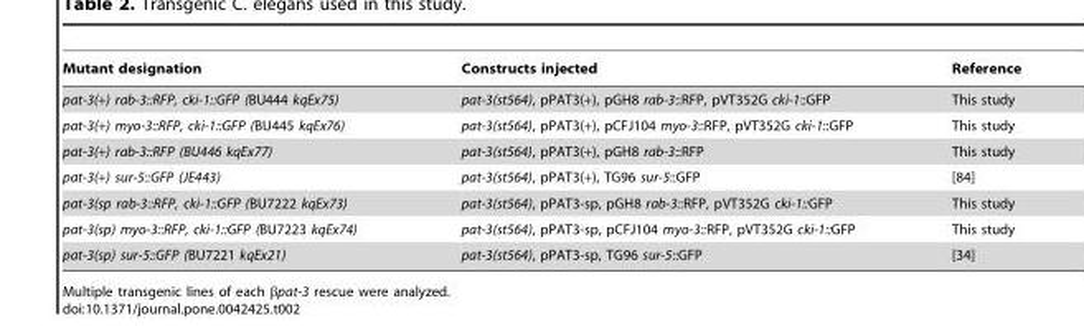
<table><thead><tr><td>Mutant designation</td><td>Constructs injected</td><td>Reference</td></tr></thead><tbody><tr><td>pat-3(+) rab-3::RFP, cki-1::GFP (BU444 kqEx75)</td><td>pat-3(st564), pPAT3(+), pGH8 rab-3::RFP, pVT352G cki-1::GFP</td><td>This study</td></tr><tr><td>pat-3(+) myo-3::RFP, cki-1::GFP (BU445 kqEx76)</td><td>pat-3(st564), pPAT3(+), pCFJ104 myo-3::RFP, pVT352G cki-1::GFP</td><td>This study</td></tr><tr><td>pat-3(+) rab-3::RFP (BU446 kqEx77)</td><td>pat-3(st564), pPAT3(+), pGH8 rab-3::RFP</td><td>This study</td></tr><tr><td>pat-3(+) sur-5::GFP (JE443)</td><td>pat-3(st564), pPAT3(+), TG96 sur-5::GFP</td><td>[84]</td></tr><tr><td>pat-3(sp rab-3::RFP, cki-1::GFP (BU7222 kqEx73)</td><td>pat-3(st564), pPAT3-sp, pGH8 rab-3::RFP, pVT352G cki-1::GFP</td><td>This study</td></tr><tr><td>pat-3(sp) myo-3::RFP, cki-1::GFP (BU7223 kqEx74)</td><td>pat-3(st564), pPAT3-sp, pCFJ104 myo-3::RFP, pVT352G cki-1::GFP</td><td>This study</td></tr><tr><td>pat-3(sp) sur-5::GFP (BU7221 kqEx21)</td><td>pat-3(st564), pPAT3-sp, TG96 sur-5::GFP</td><td>[34]</td></tr></tbody></table>